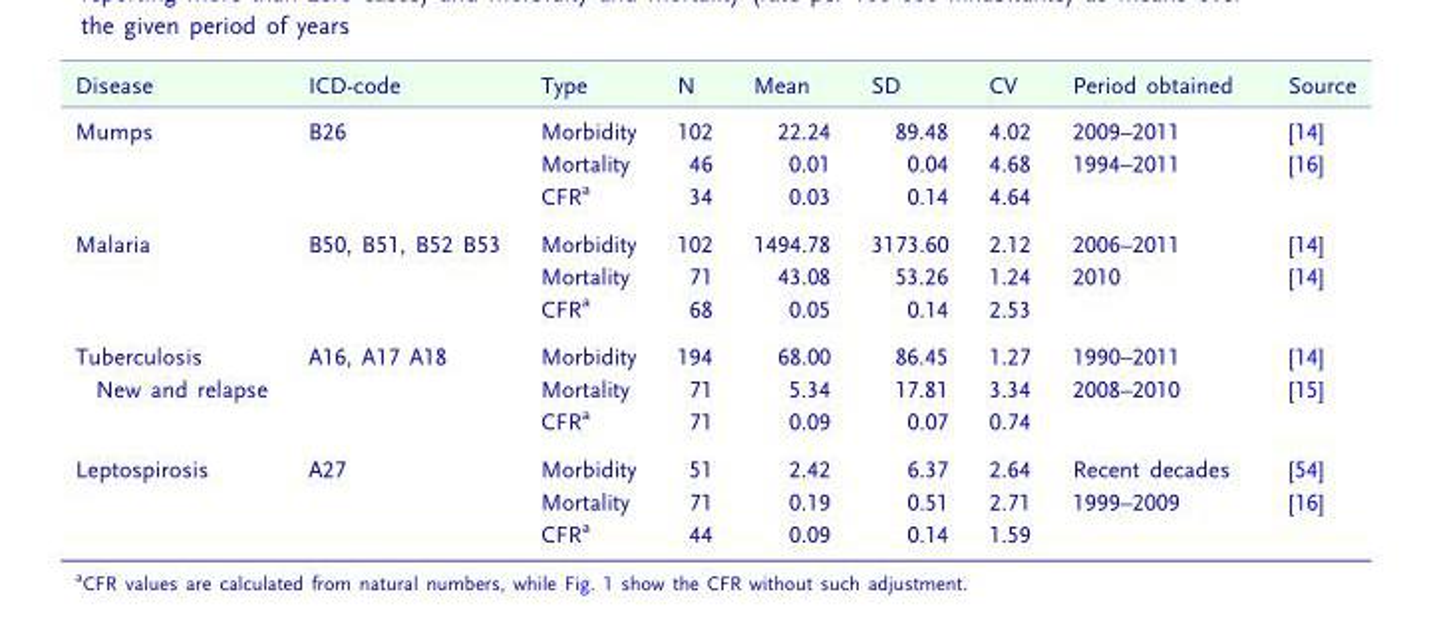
<table><thead><tr><td>Disease</td><td>ICD-code</td><td>Type</td><td>N</td><td>Mean</td><td>SD</td><td>CV</td><td>Period obtained</td><td>Source</td></tr></thead><tbody><tr><td rowspan="3">Mumps</td><td rowspan="3">B26</td><td>Morbidity</td><td>102</td><td>22.24</td><td>89.48</td><td>4.02</td><td>2009–2011</td><td>[14]</td></tr><tr><td>Mortality</td><td>46</td><td>0.01</td><td>0.04</td><td>4.68</td><td>1994–2011</td><td>[16]</td></tr><tr><td>CFR<sup>a</sup></td><td>34</td><td>0.03</td><td>0.14</td><td>4.64</td><td colspan="2"></td></tr><tr><td rowspan="3">Malaria</td><td rowspan="3">B50, B51, B52 B53</td><td>Morbidity</td><td>102</td><td>1494.78</td><td>3173.60</td><td>2.12</td><td>2006–2011</td><td>[14]</td></tr><tr><td>Mortality</td><td>71</td><td>43.08</td><td>53.26</td><td>1.24</td><td>2010</td><td>[14]</td></tr><tr><td>CFR<sup>a</sup></td><td>68</td><td>0.05</td><td>0.14</td><td>2.53</td><td colspan="2"></td></tr><tr><td rowspan="3">Tuberculosis New and relapse</td><td rowspan="3">A16, A17 A18</td><td>Morbidity</td><td>194</td><td>68.00</td><td>86.45</td><td>1.27</td><td>1990–2011</td><td>[14]</td></tr><tr><td>Mortality</td><td>71</td><td>5.34</td><td>17.81</td><td>3.34</td><td>2008–2010</td><td>[15]</td></tr><tr><td>CFR<sup>a</sup></td><td>71</td><td>0.09</td><td>0.07</td><td>0.74</td><td colspan="2"></td></tr><tr><td rowspan="3">Leptospirosis</td><td rowspan="3">A27</td><td>Morbidity</td><td>51</td><td>2.42</td><td>6.37</td><td>2.64</td><td>Recent decades</td><td>[54]</td></tr><tr><td>Mortality</td><td>71</td><td>0.19</td><td>0.51</td><td>2.71</td><td>1999–2009</td><td>[16]</td></tr><tr><td>CFR<sup>a</sup></td><td>44</td><td>0.09</td><td>0.14</td><td>1.59</td><td colspan="2"></td></tr></tbody></table>